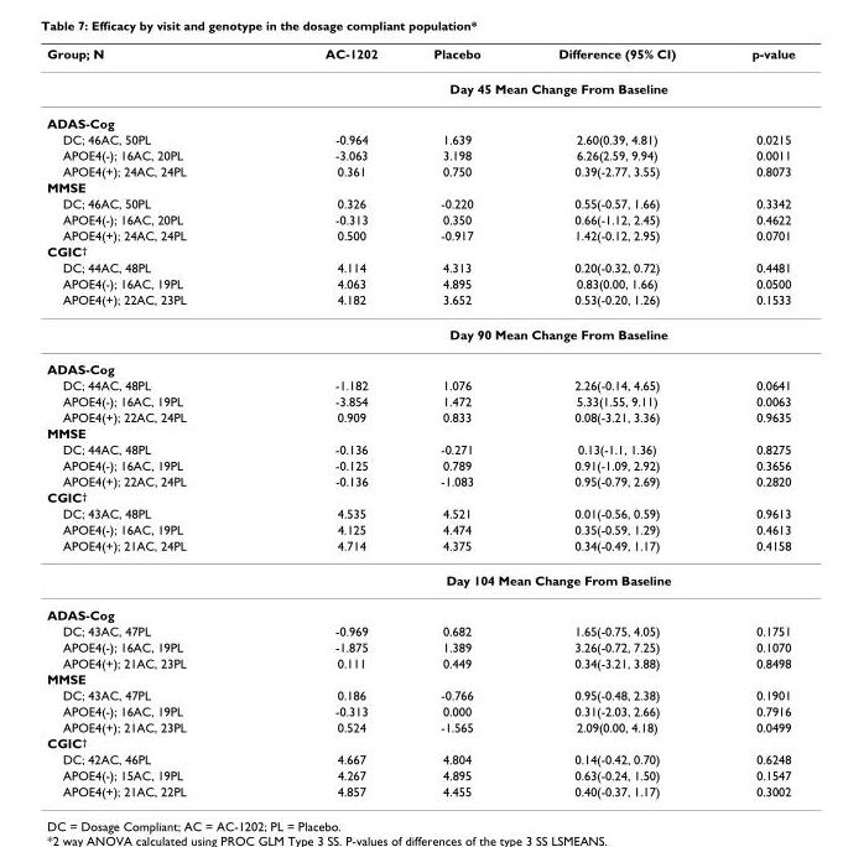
<table><thead><tr><td>Group; N</td><td>AC-1202</td><td>Placebo</td><td>Difference (95% CI)</td><td>p-value</td></tr></thead><tbody><tr><td></td><td colspan="4">Day 45 Mean Change From Baseline</td></tr><tr><td colspan="5">ADAS-Cog</td></tr><tr><td>DC; 46AC, 50PL</td><td>-0.964</td><td>1.639</td><td>2.60(0.39, 4.81)</td><td>0.0215</td></tr><tr><td>APOE4(-); 16AC, 20PL</td><td>-3.063</td><td>3.198</td><td>6.26(2.59, 9.94)</td><td>0.0011</td></tr><tr><td>APOE4(+); 24AC, 24PL</td><td>0.361</td><td>0.750</td><td>0.39(-2.77, 3.55)</td><td>0.8073</td></tr><tr><td colspan="5">MMSE</td></tr><tr><td>DC; 46AC, 50PL</td><td>0.326</td><td>-0.220</td><td>0.55(-0.57, 1.66)</td><td>0.3342</td></tr><tr><td>APOE4(-); 16AC, 20PL</td><td>-0.313</td><td>0.350</td><td>0.66(-1.12, 2.45)</td><td>0.4622</td></tr><tr><td>APOE4(+); 24AC, 24PL</td><td>0.500</td><td>-0.917</td><td>1.42(-0.12, 2.95)</td><td>0.0701</td></tr><tr><td colspan="5">CGIC<sup>†</sup></td></tr><tr><td>DC; 44AC, 48PL</td><td>4.114</td><td>4.313</td><td>0.20(-0.32, 0.72)</td><td>0.4481</td></tr><tr><td>APOE4(-); 16AC, 19PL</td><td>4.063</td><td>4.895</td><td>0.83(0.00, 1.66)</td><td>0.0500</td></tr><tr><td rowspan="2">APOE4(+); 22AC, 23PL</td><td>4.182</td><td>3.652</td><td>0.53(-0.20, 1.26)</td><td>0.1533</td></tr><tr><td colspan="4">Day 90 Mean Change From Baseline</td></tr><tr><td colspan="5">ADAS-Cog</td></tr><tr><td>DC; 44AC, 48PL</td><td>-1.182</td><td>1.076</td><td>2.26(-0.14, 4.65)</td><td>0.0641</td></tr><tr><td>APOE4(-); 16AC, 19PL</td><td>-3.854</td><td>1.472</td><td>5.33(1.55, 9.11)</td><td>0.0063</td></tr><tr><td>APOE4(+); 22AC, 24PL</td><td>0.909</td><td>0.833</td><td>0.08(-3.21, 3.36)</td><td>0.9635</td></tr><tr><td colspan="5">MMSE</td></tr><tr><td>DC; 44AC, 48PL</td><td>-0.136</td><td>-0.271</td><td>0.13(-1.1, 1.36)</td><td>0.8275</td></tr><tr><td>APOE4(-); 16AC, 19PL</td><td>-0.125</td><td>0.789</td><td>0.91(-1.09, 2.92)</td><td>0.3656</td></tr><tr><td>APOE4(+); 22AC, 24PL</td><td>-0.136</td><td>-1.083</td><td>0.95(-0.79, 2.69)</td><td>0.2820</td></tr><tr><td colspan="5">CGIC<sup>†</sup></td></tr><tr><td>DC; 43AC, 48PL</td><td>4.535</td><td>4.521</td><td>0.01(-0.56, 0.59)</td><td>0.9613</td></tr><tr><td>APOE4(-); 16AC, 19PL</td><td>4.125</td><td>4.474</td><td>0.35(-0.59, 1.29)</td><td>0.4613</td></tr><tr><td rowspan="2">APOE4(+); 21AC, 24PL</td><td>4.714</td><td>4.375</td><td>0.34(-0.49, 1.17)</td><td>0.4158</td></tr><tr><td colspan="4">Day 104 Mean Change From Baseline</td></tr><tr><td colspan="5">ADAS-Cog</td></tr><tr><td>DC; 43AC, 47PL</td><td>-0.969</td><td>0.682</td><td>1.65(-0.75, 4.05)</td><td>0.1751</td></tr><tr><td>APOE4(-); 16AC, 19PL</td><td>-1.875</td><td>1.389</td><td>3.26(-0.72, 7.25)</td><td>0.1070</td></tr><tr><td>APOE4(+); 21AC, 23PL</td><td>0.111</td><td>0.449</td><td>0.34(-3.21, 3.88)</td><td>0.8498</td></tr><tr><td colspan="5">MMSE</td></tr><tr><td>DC; 43AC, 47PL</td><td>0.186</td><td>-0.766</td><td>0.95(-0.48, 2.38)</td><td>0.1901</td></tr><tr><td>APOE4(-); 16AC, 19PL</td><td>-0.313</td><td>0.000</td><td>0.31(-2.03, 2.66)</td><td>0.7916</td></tr><tr><td>APOE4(+); 21AC, 23PL</td><td>0.524</td><td>-1.565</td><td>2.09(0.00, 4.18)</td><td>0.0499</td></tr><tr><td colspan="5">CGIC<sup>†</sup></td></tr><tr><td>DC; 42AC, 46PL</td><td>4.667</td><td>4.804</td><td>0.14(-0.42, 0.70)</td><td>0.6248</td></tr><tr><td>APOE4(-); 15AC, 19PL</td><td>4.267</td><td>4.895</td><td>0.63(-0.24, 1.50)</td><td>0.1547</td></tr><tr><td>APOE4(+); 21AC, 22PL</td><td>4.857</td><td>4.455</td><td>0.40(-0.37, 1.17)</td><td>0.3002</td></tr></tbody></table>